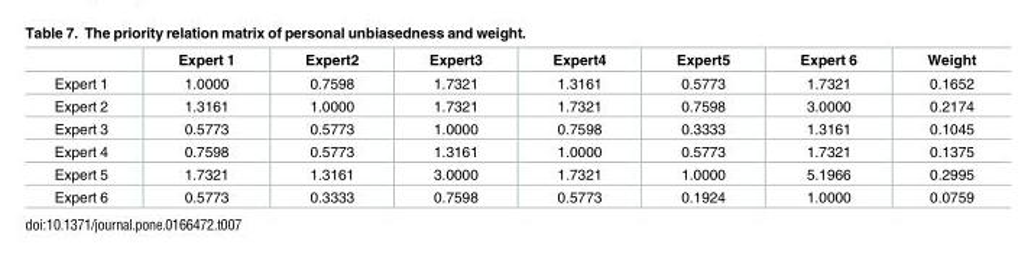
<table><thead><tr><td></td><td>Expert 1</td><td>Expert2</td><td>Expert3</td><td>Expert4</td><td>Expert5</td><td>Expert 6</td><td>Weight</td></tr></thead><tbody><tr><td>Expert 1</td><td>1.0000</td><td>0.7598</td><td>1.7321</td><td>1.3161</td><td>0.5773</td><td>1.7321</td><td>0.1652</td></tr><tr><td>Expert 2</td><td>1.3161</td><td>1.0000</td><td>1.7321</td><td>1.7321</td><td>0.7598</td><td>3.0000</td><td>0.2174</td></tr><tr><td>Expert 3</td><td>0.5773</td><td>0.5773</td><td>1.0000</td><td>0.7598</td><td>0.3333</td><td>1.3161</td><td>0.1045</td></tr><tr><td>Expert 4</td><td>0.7598</td><td>0.5773</td><td>1.3161</td><td>1.0000</td><td>0.5773</td><td>1.7321</td><td>0.1375</td></tr><tr><td>Expert 5</td><td>1.7321</td><td>1.3161</td><td>3.0000</td><td>1.7321</td><td>1.0000</td><td>5.1966</td><td>0.2995</td></tr><tr><td>Expert 6</td><td>0.5773</td><td>0.3333</td><td>0.7598</td><td>0.5773</td><td>0.1924</td><td>1.0000</td><td>0.0759</td></tr></tbody></table>